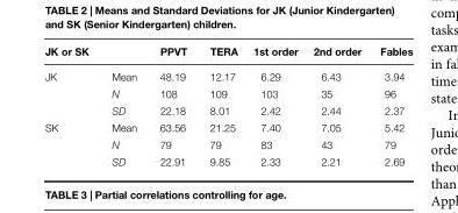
<table><thead><tr><td>JK or SK</td><td></td><td>PPVT</td><td>TERA</td><td>1st order</td><td>2nd order</td><td>Fables</td></tr></thead><tbody><tr><td rowspan="3">JK</td><td>Mean</td><td>48.19</td><td>12.17</td><td>6.29</td><td>6.43</td><td>3.94</td></tr><tr><td>N</td><td>108</td><td>109</td><td>103</td><td>35</td><td>96</td></tr><tr><td>SD</td><td>22.18</td><td>8.01</td><td>2.42</td><td>2.44</td><td>2.37</td></tr><tr><td rowspan="3">SK</td><td>Mean</td><td>63.56</td><td>21.25</td><td>7.40</td><td>7.05</td><td>5.42</td></tr><tr><td>N</td><td>79</td><td>79</td><td>83</td><td>43</td><td>79</td></tr><tr><td>SD</td><td>22.91</td><td>9.85</td><td>2.33</td><td>2.21</td><td>2.69</td></tr></tbody></table>